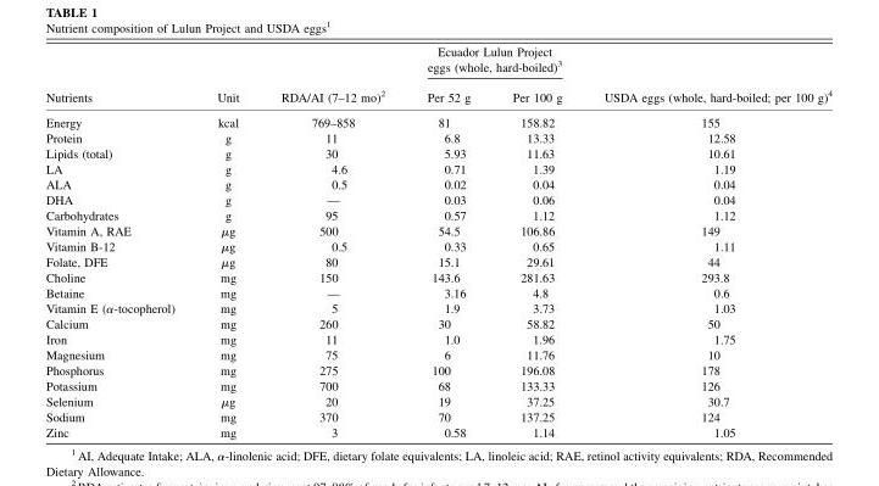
<table><thead><tr><td rowspan="2">Nutrients</td><td rowspan="2">Unit</td><td rowspan="2">RDA/AI (7–12 mo)<sup>2</sup></td><td colspan="2">Ecuador Lulun Project eggs (whole, hard-boiled)<sup>3</sup></td><td rowspan="2">USDA eggs (whole, hard-boiled; per 100 g)<sup>4</sup></td></tr><tr><td>Per 52 g</td><td>Per 100 g</td></tr></thead><tbody><tr><td>Energy</td><td>kcal</td><td>769–858</td><td>81</td><td>158.82</td><td>155</td></tr><tr><td>Protein</td><td>g</td><td>11</td><td>6.8</td><td>13.33</td><td>12.58</td></tr><tr><td>Lipids (total)</td><td>g</td><td>30</td><td>5.93</td><td>11.63</td><td>10.61</td></tr><tr><td>LA</td><td>g</td><td>4.6</td><td>0.71</td><td>1.39</td><td>1.19</td></tr><tr><td>ALA</td><td>g</td><td>0.5</td><td>0.02</td><td>0.04</td><td>0.04</td></tr><tr><td>DHA</td><td>g</td><td>—</td><td>0.03</td><td>0.06</td><td>0.04</td></tr><tr><td>Carbohydrates</td><td>g</td><td>95</td><td>0.57</td><td>1.12</td><td>1.12</td></tr><tr><td>Vitamin A, RAE</td><td>μg</td><td>500</td><td>54.5</td><td>106.86</td><td>149</td></tr><tr><td>Vitamin B-12</td><td>μg</td><td>0.5</td><td>0.33</td><td>0.65</td><td>1.11</td></tr><tr><td>Folate, DFE</td><td>μg</td><td>80</td><td>15.1</td><td>29.61</td><td>44</td></tr><tr><td>Choline</td><td>mg</td><td>150</td><td>143.6</td><td>281.63</td><td>293.8</td></tr><tr><td>Betaine</td><td>mg</td><td>—</td><td>3.16</td><td>4.8</td><td>0.6</td></tr><tr><td>Vitamin E (α-tocopherol)</td><td>mg</td><td>5</td><td>1.9</td><td>3.73</td><td>1.03</td></tr><tr><td>Calcium</td><td>mg</td><td>260</td><td>30</td><td>58.82</td><td>50</td></tr><tr><td>Iron</td><td>mg</td><td>11</td><td>1.0</td><td>1.96</td><td>1.75</td></tr><tr><td>Magnesium</td><td>mg</td><td>75</td><td>6</td><td>11.76</td><td>10</td></tr><tr><td>Phosphorus</td><td>mg</td><td>275</td><td>100</td><td>196.08</td><td>178</td></tr><tr><td>Potassium</td><td>mg</td><td>700</td><td>68</td><td>133.33</td><td>126</td></tr><tr><td>Selenium</td><td>μg</td><td>20</td><td>19</td><td>37.25</td><td>30.7</td></tr><tr><td>Sodium</td><td>mg</td><td>370</td><td>70</td><td>137.25</td><td>124</td></tr><tr><td>Zinc</td><td>mg</td><td>3</td><td>0.58</td><td>1.14</td><td>1.05</td></tr></tbody></table>